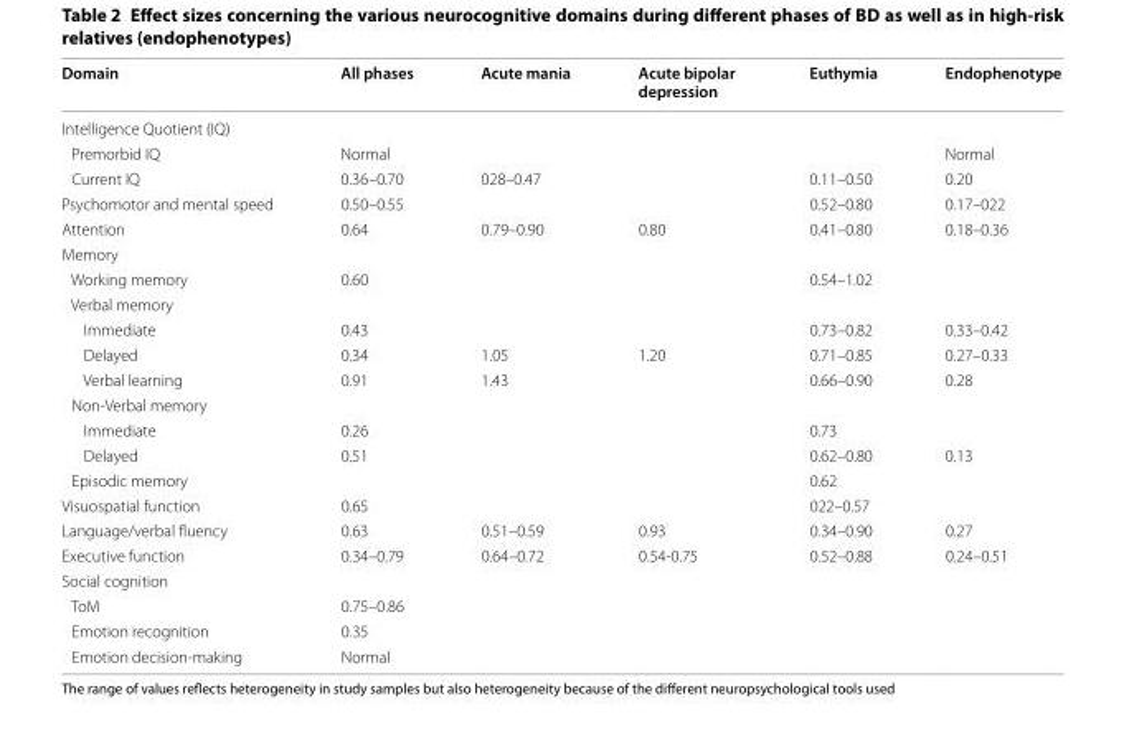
<table><thead><tr><td>Domain</td><td>All phases</td><td>Acute mania</td><td>Acute bipolar depression</td><td>Euthymia</td><td>Endophenotype</td></tr></thead><tbody><tr><td colspan="6">Intelligence Quotient (IQ)</td></tr><tr><td>Premorbid IQ</td><td>Normal</td><td></td><td></td><td></td><td>Normal</td></tr><tr><td>Current IQ</td><td>0.36–0.70</td><td>028–0.47</td><td></td><td>0.11–0.50</td><td>0.20</td></tr><tr><td>Psychomotor and mental speed</td><td>0.50–0.55</td><td></td><td></td><td>0.52–0.80</td><td>0.17–022</td></tr><tr><td>Attention</td><td>0.64</td><td>0.79–0.90</td><td>0.80</td><td>0.41–0.80</td><td>0.18–0.36</td></tr><tr><td colspan="6">Memory</td></tr><tr><td>Working memory</td><td>0.60</td><td></td><td></td><td>0.54–1.02</td><td></td></tr><tr><td colspan="6">Verbal memory</td></tr><tr><td>Immediate</td><td>0.43</td><td></td><td></td><td>0.73–0.82</td><td>0.33–0.42</td></tr><tr><td>Delayed</td><td>0.34</td><td>1.05</td><td>1.20</td><td>0.71–0.85</td><td>0.27–0.33</td></tr><tr><td>Verbal learning</td><td>0.91</td><td>1.43</td><td></td><td>0.66–0.90</td><td>0.28</td></tr><tr><td colspan="6">Non-Verbal memory</td></tr><tr><td>Immediate</td><td>0.26</td><td></td><td></td><td>0.73</td><td></td></tr><tr><td>Delayed</td><td>0.51</td><td></td><td></td><td>0.62–0.80</td><td>0.13</td></tr><tr><td>Episodic memory</td><td></td><td></td><td></td><td>0.62</td><td></td></tr><tr><td>Visuospatial function</td><td>0.65</td><td></td><td></td><td>022–0.57</td><td></td></tr><tr><td>Language/verbal fluency</td><td>0.63</td><td>0.51–0.59</td><td>0.93</td><td>0.34–0.90</td><td>0.27</td></tr><tr><td>Executive function</td><td>0.34–0.79</td><td>0.64–0.72</td><td>0.54-0.75</td><td>0.52–0.88</td><td>0.24–0.51</td></tr><tr><td colspan="6">Social cognition</td></tr><tr><td>ToM</td><td>0.75–0.86</td><td></td><td></td><td></td><td></td></tr><tr><td>Emotion recognition</td><td>0.35</td><td></td><td></td><td></td><td></td></tr><tr><td>Emotion decision-making</td><td>Normal</td><td></td><td></td><td></td><td></td></tr></tbody></table>